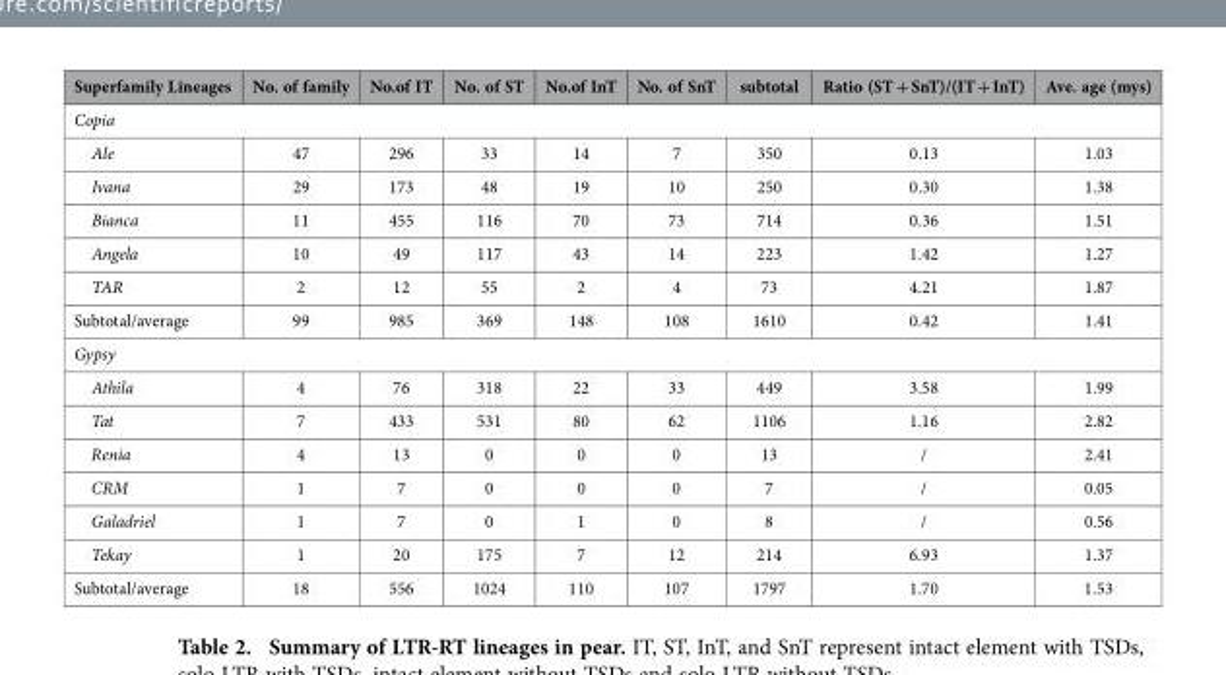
<table><thead><tr><td>Superfamily Lineages</td><td>No. of family</td><td>No.of IT</td><td>No. of ST</td><td>No.of InT</td><td>No. of SnT</td><td>subtotal</td><td>Ratio (ST + SnT)/(IT + InT)</td><td>Ave. age (mys)</td></tr></thead><tbody><tr><td colspan="9">Copia</td></tr><tr><td>Ale</td><td>47</td><td>296</td><td>33</td><td>14</td><td>7</td><td>350</td><td>0.13</td><td>1.03</td></tr><tr><td>Ivana</td><td>29</td><td>173</td><td>48</td><td>19</td><td>10</td><td>250</td><td>0.30</td><td>1.38</td></tr><tr><td>Bianca</td><td>11</td><td>455</td><td>116</td><td>70</td><td>73</td><td>714</td><td>0.36</td><td>1.51</td></tr><tr><td>Angela</td><td>10</td><td>49</td><td>117</td><td>43</td><td>14</td><td>223</td><td>1.42</td><td>1.27</td></tr><tr><td>TAR</td><td>2</td><td>12</td><td>55</td><td>2</td><td>4</td><td>73</td><td>4.21</td><td>1.87</td></tr><tr><td>Subtotal/average</td><td>99</td><td>985</td><td>369</td><td>148</td><td>108</td><td>1610</td><td>0.42</td><td>1.41</td></tr><tr><td colspan="9">Gypsy</td></tr><tr><td>Athila</td><td>4</td><td>76</td><td>318</td><td>22</td><td>33</td><td>449</td><td>3.58</td><td>1.99</td></tr><tr><td>Tat</td><td>7</td><td>433</td><td>531</td><td>80</td><td>62</td><td>1106</td><td>1.16</td><td>2.82</td></tr><tr><td>Renia</td><td>4</td><td>13</td><td>0</td><td>0</td><td>0</td><td>13</td><td>/</td><td>2.41</td></tr><tr><td>CRM</td><td>1</td><td>7</td><td>0</td><td>0</td><td>0</td><td>7</td><td>/</td><td>0.05</td></tr><tr><td>Galadriel</td><td>1</td><td>7</td><td>0</td><td>1</td><td>0</td><td>8</td><td>/</td><td>0.56</td></tr><tr><td>Tekay</td><td>1</td><td>20</td><td>175</td><td>7</td><td>12</td><td>214</td><td>6.93</td><td>1.37</td></tr><tr><td>Subtotal/average</td><td>18</td><td>556</td><td>1024</td><td>110</td><td>107</td><td>1797</td><td>1.70</td><td>1.53</td></tr></tbody></table>